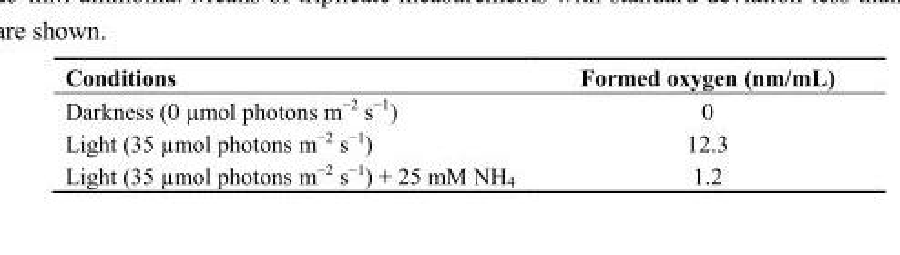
<table><thead><tr><td>Conditions</td><td>Formed oxygen (nm/mL)</td></tr></thead><tbody><tr><td>Darkness (0 µmol photons m<sup>−2</sup> s<sup>−1</sup>)</td><td>0</td></tr><tr><td>Light (35 µmol photons m<sup>−2</sup> s<sup>−1</sup>)</td><td>12.3</td></tr><tr><td>Light (35 µmol photons m<sup>−2</sup> s<sup>−1</sup>) + 25 mM NH<sub>4</sub></td><td>1.2</td></tr></tbody></table>